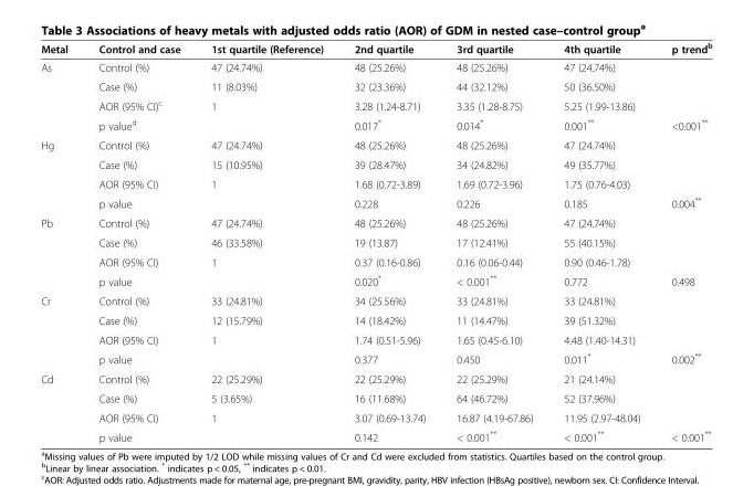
<table><thead><tr><td>Metal</td><td>Control and case</td><td>1st quartile (Reference)</td><td>2nd quartile</td><td>3rd quartile</td><td>4th quartile</td><td>p trend<sup>b</sup></td></tr></thead><tbody><tr><td rowspan="4">As</td><td>Control (%)</td><td>47 (24.74%)</td><td>48 (25.26%)</td><td>48 (25.26%)</td><td>47 (24.74%)</td><td></td></tr><tr><td>Case (%)</td><td>11 (8.03%)</td><td>32 (23.36%)</td><td>44 (32.12%)</td><td>50 (36.50%)</td><td></td></tr><tr><td>AOR (95% CI)<sup>c</sup></td><td>1</td><td>3.28 (1.24-8.71)</td><td>3.35 (1.28-8.75)</td><td>5.25 (1.99-13.86)</td><td></td></tr><tr><td>p value<sup>d</sup></td><td></td><td>0.017*</td><td>0.014*</td><td>0.001**</td><td>&lt;0.001**</td></tr><tr><td rowspan="4">Hg</td><td>Control (%)</td><td>47 (24.74%)</td><td>48 (25.26%)</td><td>48 (25.26%)</td><td>47 (24.74%)</td><td></td></tr><tr><td>Case (%)</td><td>15 (10.95%)</td><td>39 (28.47%)</td><td>34 (24.82%)</td><td>49 (35.77%)</td><td></td></tr><tr><td>AOR (95% CI)</td><td>1</td><td>1.68 (0.72-3.89)</td><td>1.69 (0.72-3.96)</td><td>1.75 (0.76-4.03)</td><td></td></tr><tr><td>p value</td><td></td><td>0.228</td><td>0.226</td><td>0.185</td><td>0.004**</td></tr><tr><td rowspan="4">Pb</td><td>Control (%)</td><td>47 (24.74%)</td><td>48 (25.26%)</td><td>48 (25.26%)</td><td>47 (24.74%)</td><td></td></tr><tr><td>Case (%)</td><td>46 (33.58%)</td><td>19 (13.87)</td><td>17 (12.41%)</td><td>55 (40.15%)</td><td></td></tr><tr><td>AOR (95% CI)</td><td>1</td><td>0.37 (0.16-0.86)</td><td>0.16 (0.06-0.44)</td><td>0.90 (0.46-1.78)</td><td></td></tr><tr><td>p value</td><td></td><td>0.020*</td><td>&lt; 0.001**</td><td>0.772</td><td>0.498</td></tr><tr><td rowspan="4">Cr</td><td>Control (%)</td><td>33 (24.81%)</td><td>34 (25.56%)</td><td>33 (24.81%)</td><td>33 (24.81%)</td><td></td></tr><tr><td>Case (%)</td><td>12 (15.79%)</td><td>14 (18.42%)</td><td>11 (14.47%)</td><td>39 (51.32%)</td><td></td></tr><tr><td>AOR (95% CI)</td><td>1</td><td>1.74 (0.51-5.96)</td><td>1.65 (0.45-6.10)</td><td>4.48 (1.40-14.31)</td><td></td></tr><tr><td>p value</td><td></td><td>0.377</td><td>0.450</td><td>0.011*</td><td>0.002**</td></tr><tr><td rowspan="4">Cd</td><td>Control (%)</td><td>22 (25.29%)</td><td>22 (25.29%)</td><td>22 (25.29%)</td><td>21 (24.14%)</td><td></td></tr><tr><td>Case (%)</td><td>5 (3.65%)</td><td>16 (11.68%)</td><td>64 (46.72%)</td><td>52 (37.96%)</td><td></td></tr><tr><td>AOR (95% CI)</td><td>1</td><td>3.07 (0.69-13.74)</td><td>16.87 (4.19-67.86)</td><td>11.95 (2.97-48.04)</td><td></td></tr><tr><td>p value</td><td></td><td>0.142</td><td>&lt; 0.001**</td><td>&lt; 0.001**</td><td>&lt; 0.001**</td></tr></tbody></table>